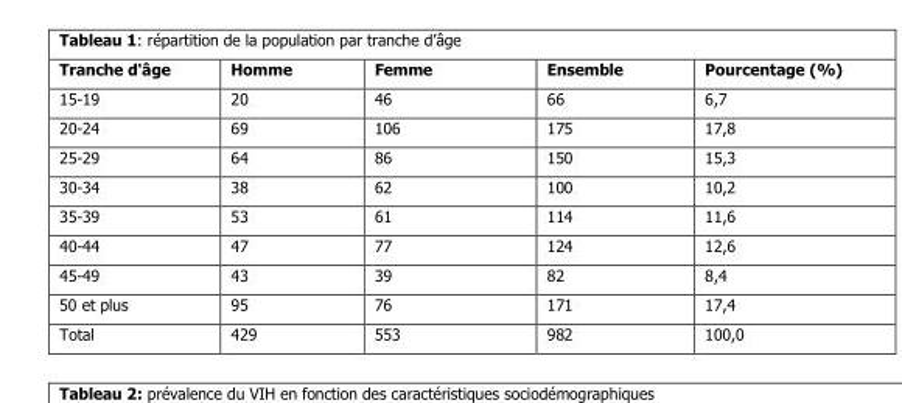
<table><thead><tr><td>Tranche d&#x27;âge</td><td>Homme</td><td>Femme</td><td>Ensemble</td><td>Pourcentage (%)</td></tr></thead><tbody><tr><td>15-19</td><td>20</td><td>46</td><td>66</td><td>6,7</td></tr><tr><td>20-24</td><td>69</td><td>106</td><td>175</td><td>17,8</td></tr><tr><td>25-29</td><td>64</td><td>86</td><td>150</td><td>15,3</td></tr><tr><td>30-34</td><td>38</td><td>62</td><td>100</td><td>10,2</td></tr><tr><td>35-39</td><td>53</td><td>61</td><td>114</td><td>11,6</td></tr><tr><td>40-44</td><td>47</td><td>77</td><td>124</td><td>12,6</td></tr><tr><td>45-49</td><td>43</td><td>39</td><td>82</td><td>8,4</td></tr><tr><td>50 et plus</td><td>95</td><td>76</td><td>171</td><td>17,4</td></tr><tr><td>Total</td><td>429</td><td>553</td><td>982</td><td>100,0</td></tr></tbody></table>